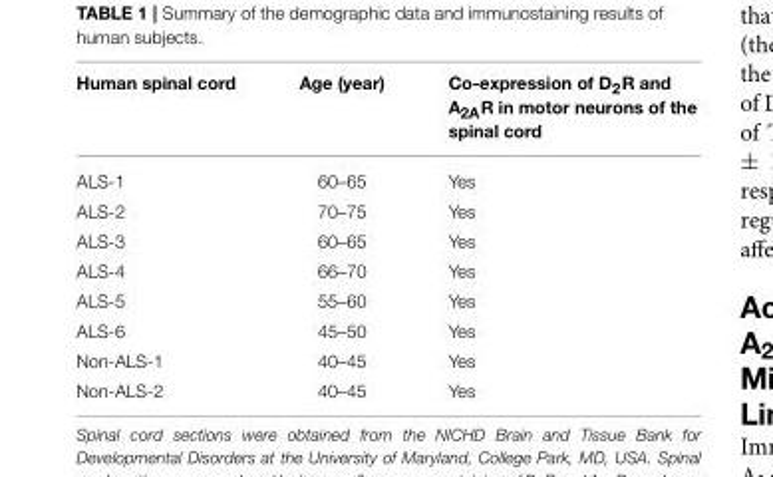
<table><thead><tr><td>Human spinal cord</td><td>Age (year)</td><td>Co-expression of D<sub>2</sub>R and A<sub>2A</sub>R in motor neurons of the spinal cord</td></tr></thead><tbody><tr><td>ALS-1</td><td>60–65</td><td>Yes</td></tr><tr><td>ALS-2</td><td>70–75</td><td>Yes</td></tr><tr><td>ALS-3</td><td>60–65</td><td>Yes</td></tr><tr><td>ALS-4</td><td>66–70</td><td>Yes</td></tr><tr><td>ALS-5</td><td>55–60</td><td>Yes</td></tr><tr><td>ALS-6</td><td>45–50</td><td>Yes</td></tr><tr><td>Non-ALS-1</td><td>40–45</td><td>Yes</td></tr><tr><td>Non-ALS-2</td><td>40–45</td><td>Yes</td></tr></tbody></table>